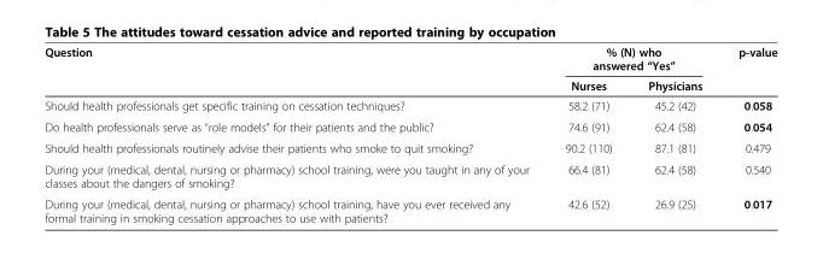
<table><thead><tr><td rowspan="2">Question</td><td colspan="2">% (N) who answered “Yes”</td><td rowspan="2">p-value</td></tr><tr><td>Nurses</td><td>Physicians</td></tr></thead><tbody><tr><td>Should health professionals get specific training on cessation techniques?</td><td>58.2 (71)</td><td>45.2 (42)</td><td>0.058</td></tr><tr><td>Do health professionals serve as “role models” for their patients and the public?</td><td>74.6 (91)</td><td>62.4 (58)</td><td>0.054</td></tr><tr><td>Should health professionals routinely advise their patients who smoke to quit smoking?</td><td>90.2 (110)</td><td>87.1 (81)</td><td>0.479</td></tr><tr><td>During your (medical, dental, nursing or pharmacy) school training, were you taught in any of your classes about the dangers of smoking?</td><td>66.4 (81)</td><td>62.4 (58)</td><td>0.540</td></tr><tr><td>During your (medical, dental, nursing or pharmacy) school training, have you ever received any formal training in smoking cessation approaches to use with patients?</td><td>42.6 (52)</td><td>26.9 (25)</td><td>0.017</td></tr></tbody></table>